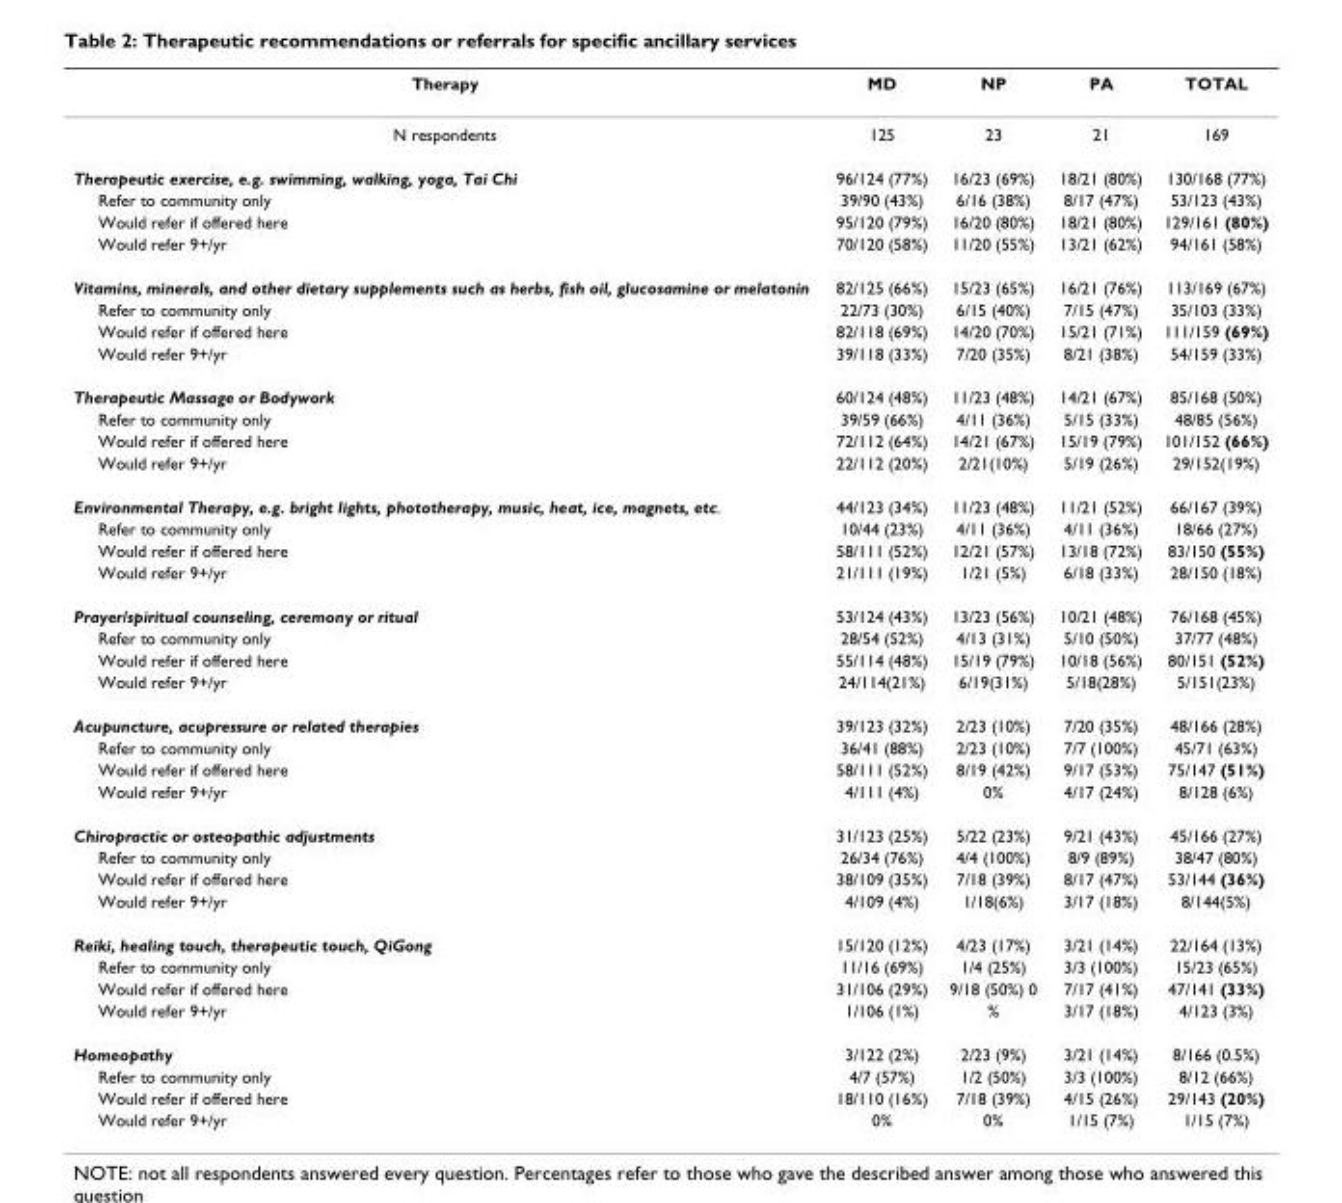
<table><thead><tr><td>Therapy</td><td>MD</td><td>NP</td><td>PA</td><td>TOTAL</td></tr></thead><tbody><tr><td>N respondents</td><td>125</td><td>23</td><td>21</td><td>169</td></tr><tr><td>Therapeutic exercise, e.g. swimming, walking, yoga, Tai Chi</td><td>96/124 (77%)</td><td>16/23 (69%)</td><td>18/21 (80%)</td><td>130/168 (77%)</td></tr><tr><td>Refer to community only</td><td>39/90 (43%)</td><td>6/16 (38%)</td><td>8/17 (47%)</td><td>53/123 (43%)</td></tr><tr><td>Would refer if offered here</td><td>95/120 (79%)</td><td>16/20 (80%)</td><td>18/21 (80%)</td><td>129/161 (80%)</td></tr><tr><td>Would refer 9+/yr</td><td>70/120 (58%)</td><td>11/20 (55%)</td><td>13/21 (62%)</td><td>94/161 (58%)</td></tr><tr><td>Vitamins, minerals, and other dietary supplements such as herbs, fish oil, glucosamine or melatonin</td><td>82/125 (66%)</td><td>15/23 (65%)</td><td>16/21 (76%)</td><td>113/169 (67%)</td></tr><tr><td>Refer to community only</td><td>22/73 (30%)</td><td>6/15 (40%)</td><td>7/15 (47%)</td><td>35/103 (33%)</td></tr><tr><td>Would refer if offered here</td><td>82/118 (69%)</td><td>14/20 (70%)</td><td>15/21 (71%)</td><td>111/159 (69%)</td></tr><tr><td>Would refer 9+/yr</td><td>39/118 (33%)</td><td>7/20 (35%)</td><td>8/21 (38%)</td><td>54/159 (33%)</td></tr><tr><td>Therapeutic Massage or Bodywork</td><td>60/124 (48%)</td><td>11/23 (48%)</td><td>14/21 (67%)</td><td>85/168 (50%)</td></tr><tr><td>Refer to community only</td><td>39/59 (66%)</td><td>4/11 (36%)</td><td>5/15 (33%)</td><td>48/85 (56%)</td></tr><tr><td>Would refer if offered here</td><td>72/112 (64%)</td><td>14/21 (67%)</td><td>15/19 (79%)</td><td>101/152 (66%)</td></tr><tr><td>Would refer 9+/yr</td><td>22/112 (20%)</td><td>2/21(10%)</td><td>5/19 (26%)</td><td>29/152(19%)</td></tr><tr><td>Environmental Therapy, e.g. bright lights, phototherapy, music, heat, ice, magnets, etc.</td><td>44/123 (34%)</td><td>11/23 (48%)</td><td>11/21 (52%)</td><td>66/167 (39%)</td></tr><tr><td>Refer to community only</td><td>10/44 (23%)</td><td>4/11 (36%)</td><td>4/11 (36%)</td><td>18/66 (27%)</td></tr><tr><td>Would refer if offered here</td><td>58/111 (52%)</td><td>12/21 (57%)</td><td>13/18 (72%)</td><td>83/150 (55%)</td></tr><tr><td>Would refer 9+/yr</td><td>21/111 (19%)</td><td>1/21 (5%)</td><td>6/18 (33%)</td><td>28/150 (18%)</td></tr><tr><td>Prayer/spiritual counseling, ceremony or ritual</td><td>53/124 (43%)</td><td>13/23 (56%)</td><td>10/21 (48%)</td><td>76/168 (45%)</td></tr><tr><td>Refer to community only</td><td>28/54 (52%)</td><td>4/13 (31%)</td><td>5/10 (50%)</td><td>37/77 (48%)</td></tr><tr><td>Would refer if offered here</td><td>55/114 (48%)</td><td>15/19 (79%)</td><td>10/18 (56%)</td><td>80/151 (52%)</td></tr><tr><td>Would refer 9+/yr</td><td>24/114(21%)</td><td>6/19(31%)</td><td>5/18(28%)</td><td>5/151(23%)</td></tr><tr><td>Acupuncture, acupressure or related therapies</td><td>39/123 (32%)</td><td>2/23 (10%)</td><td>7/20 (35%)</td><td>48/166 (28%)</td></tr><tr><td>Refer to community only</td><td>36/41 (88%)</td><td>2/23 (10%)</td><td>7/7 (100%)</td><td>45/71 (63%)</td></tr><tr><td>Would refer if offered here</td><td>58/111 (52%)</td><td>8/19 (42%)</td><td>9/17 (53%)</td><td>75/147 (51%)</td></tr><tr><td>Would refer 9+/yr</td><td>4/111 (4%)</td><td>0%</td><td>4/17 (24%)</td><td>8/128 (6%)</td></tr><tr><td>Chiropractic or osteopathic adjustments</td><td>31/123 (25%)</td><td>5/22 (23%)</td><td>9/21 (43%)</td><td>45/166 (27%)</td></tr><tr><td>Refer to community only</td><td>26/34 (76%)</td><td>4/4 (100%)</td><td>8/9 (89%)</td><td>38/47 (80%)</td></tr><tr><td>Would refer if offered here</td><td>38/109 (35%)</td><td>7/18 (39%)</td><td>8/17 (47%)</td><td>53/144 (36%)</td></tr><tr><td>Would refer 9+/yr</td><td>4/109 (4%)</td><td>1/18(6%)</td><td>3/17 (18%)</td><td>8/144(5%)</td></tr><tr><td>Reiki, healing touch, therapeutic touch, QiGong</td><td>15/120 (12%)</td><td>4/23 (17%)</td><td>3/21 (14%)</td><td>22/164 (13%)</td></tr><tr><td>Refer to community only</td><td>11/16 (69%)</td><td>1/4 (25%)</td><td>3/3 (100%)</td><td>15/23 (65%)</td></tr><tr><td>Would refer if offered here</td><td>31/106 (29%)</td><td>9/18 (50%) 0</td><td>7/17 (41%)</td><td>47/141 (33%)</td></tr><tr><td>Would refer 9+/yr</td><td>1/106 (1%)</td><td>%</td><td>3/17 (18%)</td><td>4/123 (3%)</td></tr><tr><td>Homeopathy</td><td>3/122 (2%)</td><td>2/23 (9%)</td><td>3/21 (14%)</td><td>8/166 (0.5%)</td></tr><tr><td>Refer to community only</td><td>4/7 (57%)</td><td>1/2 (50%)</td><td>3/3 (100%)</td><td>8/12 (66%)</td></tr><tr><td>Would refer if offered here</td><td>18/110 (16%)</td><td>7/18 (39%)</td><td>4/15 (26%)</td><td>29/143 (20%)</td></tr><tr><td>Would refer 9+/yr</td><td>0%</td><td>0%</td><td>1/15 (7%)</td><td>1/15 (7%)</td></tr></tbody></table>